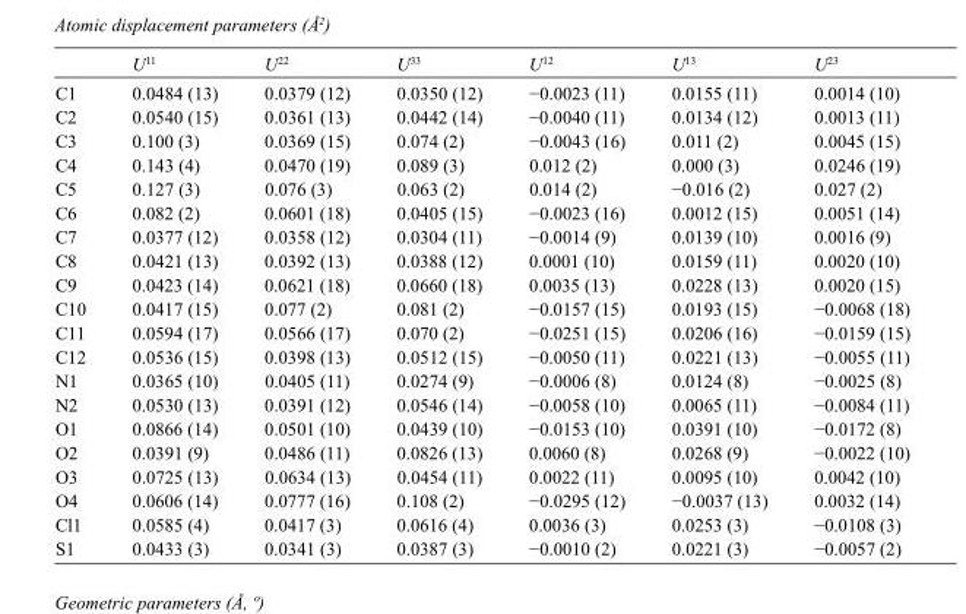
<table><thead><tr><td></td><td>U<sup>11</sup></td><td>U<sup>22</sup></td><td>U<sup>33</sup></td><td>U<sup>12</sup></td><td>U<sup>13</sup></td><td>U<sup>23</sup></td></tr></thead><tbody><tr><td>C1</td><td>0.0484 (13)</td><td>0.0379 (12)</td><td>0.0350 (12)</td><td>−0.0023 (11)</td><td>0.0155 (11)</td><td>0.0014 (10)</td></tr><tr><td>C2</td><td>0.0540 (15)</td><td>0.0361 (13)</td><td>0.0442 (14)</td><td>−0.0040 (11)</td><td>0.0134 (12)</td><td>0.0013 (11)</td></tr><tr><td>C3</td><td>0.100 (3)</td><td>0.0369 (15)</td><td>0.074 (2)</td><td>−0.0043 (16)</td><td>0.011 (2)</td><td>0.0045 (15)</td></tr><tr><td>C4</td><td>0.143 (4)</td><td>0.0470 (19)</td><td>0.089 (3)</td><td>0.012 (2)</td><td>0.000 (3)</td><td>0.0246 (19)</td></tr><tr><td>C5</td><td>0.127 (3)</td><td>0.076 (3)</td><td>0.063 (2)</td><td>0.014 (2)</td><td>−0.016 (2)</td><td>0.027 (2)</td></tr><tr><td>C6</td><td>0.082 (2)</td><td>0.0601 (18)</td><td>0.0405 (15)</td><td>−0.0023 (16)</td><td>0.0012 (15)</td><td>0.0051 (14)</td></tr><tr><td>C7</td><td>0.0377 (12)</td><td>0.0358 (12)</td><td>0.0304 (11)</td><td>−0.0014 (9)</td><td>0.0139 (10)</td><td>0.0016 (9)</td></tr><tr><td>C8</td><td>0.0421 (13)</td><td>0.0392 (13)</td><td>0.0388 (12)</td><td>0.0001 (10)</td><td>0.0159 (11)</td><td>0.0020 (10)</td></tr><tr><td>C9</td><td>0.0423 (14)</td><td>0.0621 (18)</td><td>0.0660 (18)</td><td>0.0035 (13)</td><td>0.0228 (13)</td><td>0.0020 (15)</td></tr><tr><td>C10</td><td>0.0417 (15)</td><td>0.077 (2)</td><td>0.081 (2)</td><td>−0.0157 (15)</td><td>0.0193 (15)</td><td>−0.0068 (18)</td></tr><tr><td>C11</td><td>0.0594 (17)</td><td>0.0566 (17)</td><td>0.070 (2)</td><td>−0.0251 (15)</td><td>0.0206 (16)</td><td>−0.0159 (15)</td></tr><tr><td>C12</td><td>0.0536 (15)</td><td>0.0398 (13)</td><td>0.0512 (15)</td><td>−0.0050 (11)</td><td>0.0221 (13)</td><td>−0.0055 (11)</td></tr><tr><td>N1</td><td>0.0365 (10)</td><td>0.0405 (11)</td><td>0.0274 (9)</td><td>−0.0006 (8)</td><td>0.0124 (8)</td><td>−0.0025 (8)</td></tr><tr><td>N2</td><td>0.0530 (13)</td><td>0.0391 (12)</td><td>0.0546 (14)</td><td>−0.0058 (10)</td><td>0.0065 (11)</td><td>−0.0084 (11)</td></tr><tr><td>O1</td><td>0.0866 (14)</td><td>0.0501 (10)</td><td>0.0439 (10)</td><td>−0.0153 (10)</td><td>0.0391 (10)</td><td>−0.0172 (8)</td></tr><tr><td>O2</td><td>0.0391 (9)</td><td>0.0486 (11)</td><td>0.0826 (13)</td><td>0.0060 (8)</td><td>0.0268 (9)</td><td>−0.0022 (10)</td></tr><tr><td>O3</td><td>0.0725 (13)</td><td>0.0634 (13)</td><td>0.0454 (11)</td><td>0.0022 (11)</td><td>0.0095 (10)</td><td>0.0042 (10)</td></tr><tr><td>O4</td><td>0.0606 (14)</td><td>0.0777 (16)</td><td>0.108 (2)</td><td>−0.0295 (12)</td><td>−0.0037 (13)</td><td>0.0032 (14)</td></tr><tr><td>Cl1</td><td>0.0585 (4)</td><td>0.0417 (3)</td><td>0.0616 (4)</td><td>0.0036 (3)</td><td>0.0253 (3)</td><td>−0.0108 (3)</td></tr><tr><td>S1</td><td>0.0433 (3)</td><td>0.0341 (3)</td><td>0.0387 (3)</td><td>−0.0010 (2)</td><td>0.0221 (3)</td><td>−0.0057 (2)</td></tr></tbody></table>